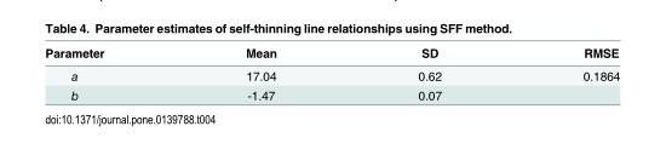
<table><thead><tr><td>Parameter</td><td>Mean</td><td>SD</td><td>RMSE</td></tr></thead><tbody><tr><td>a</td><td>17.04</td><td>0.62</td><td>0.1864</td></tr><tr><td>b</td><td>-1.47</td><td>0.07</td><td></td></tr></tbody></table>